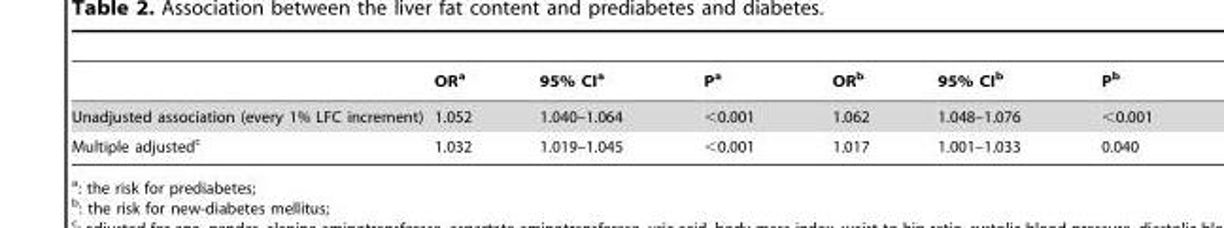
<table><thead><tr><td></td><td>OR<sup>a</sup></td><td>95% CI<sup>a</sup></td><td>P<sup>a</sup></td><td>OR<sup>b</sup></td><td>95% CI<sup>b</sup></td><td>P<sup>b</sup></td></tr></thead><tbody><tr><td>Unadjusted association (every 1% LFC increment)</td><td>1.052</td><td>1.040–1.064</td><td>&lt;0.001</td><td>1.062</td><td>1.048–1.076</td><td>&lt;0.001</td></tr><tr><td>Multiple adjusted<sup>c</sup></td><td>1.032</td><td>1.019–1.045</td><td>&lt;0.001</td><td>1.017</td><td>1.001–1.033</td><td>0.040</td></tr></tbody></table>